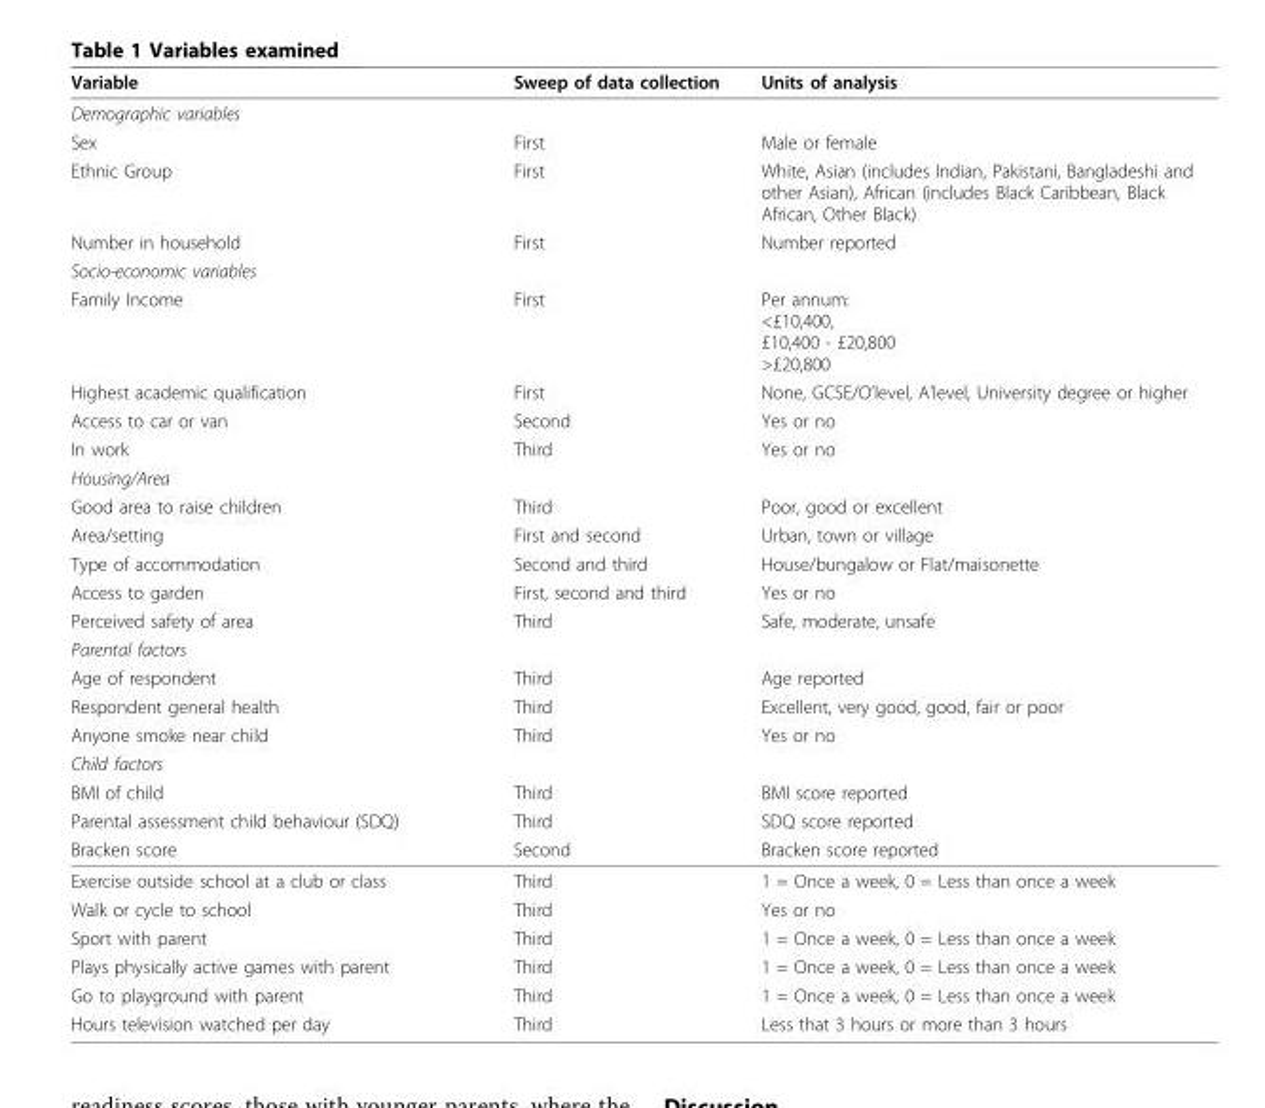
<table><thead><tr><td>Variable</td><td>Sweep of data collection</td><td>Units of analysis</td></tr></thead><tbody><tr><td colspan="3">Demographic variables</td></tr><tr><td>Sex</td><td>First</td><td>Male or female</td></tr><tr><td>Ethnic Group</td><td>First</td><td>White, Asian (includes Indian, Pakistani, Bangladeshi and other Asian), African (includes Black Caribbean, Black African, Other Black)</td></tr><tr><td>Number in household</td><td>First</td><td>Number reported</td></tr><tr><td colspan="3">Socio-economic variables</td></tr><tr><td>Family Income</td><td>First</td><td>Per annum: &lt;£10,400, £10,400 - £20,800 &gt;£20,800</td></tr><tr><td>Highest academic qualification</td><td>First</td><td>None, GCSE/O’level, A’level, University degree or higher</td></tr><tr><td>Access to car or van</td><td>Second</td><td>Yes or no</td></tr><tr><td>In work</td><td>Third</td><td>Yes or no</td></tr><tr><td colspan="3">Housing/Area</td></tr><tr><td>Good area to raise children</td><td>Third</td><td>Poor, good or excellent</td></tr><tr><td>Area/setting</td><td>First and second</td><td>Urban, town or village</td></tr><tr><td>Type of accommodation</td><td>Second and third</td><td>House/bungalow or Flat/maisonette</td></tr><tr><td>Access to garden</td><td>First, second and third</td><td>Yes or no</td></tr><tr><td>Perceived safety of area</td><td>Third</td><td>Safe, moderate, unsafe</td></tr><tr><td colspan="3">Parental factors</td></tr><tr><td>Age of respondent</td><td>Third</td><td>Age reported</td></tr><tr><td>Respondent general health</td><td>Third</td><td>Excellent, very good, good, fair or poor</td></tr><tr><td>Anyone smoke near child</td><td>Third</td><td>Yes or no</td></tr><tr><td colspan="3">Child factors</td></tr><tr><td>BMI of child</td><td>Third</td><td>BMI score reported</td></tr><tr><td>Parental assessment child behaviour (SDQ)</td><td>Third</td><td>SDQ score reported</td></tr><tr><td>Bracken score</td><td>Second</td><td>Bracken score reported</td></tr><tr><td>Exercise outside school at a club or class</td><td>Third</td><td>1 = Once a week, 0 = Less than once a week</td></tr><tr><td>Walk or cycle to school</td><td>Third</td><td>Yes or no</td></tr><tr><td>Sport with parent</td><td>Third</td><td>1 = Once a week, 0 = Less than once a week</td></tr><tr><td>Plays physically active games with parent</td><td>Third</td><td>1 = Once a week, 0 = Less than once a week</td></tr><tr><td>Go to playground with parent</td><td>Third</td><td>1 = Once a week, 0 = Less than once a week</td></tr><tr><td>Hours television watched per day</td><td>Third</td><td>Less that 3 hours or more than 3 hours</td></tr></tbody></table>